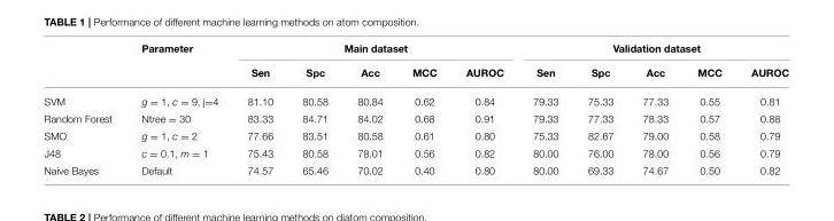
<table><thead><tr><td rowspan="2"></td><td rowspan="2">Parameter</td><td colspan="5">Main dataset</td><td colspan="5">Validation dataset</td></tr><tr><td>Sen</td><td>Spc</td><td>Acc</td><td>MCC</td><td>AUROC</td><td>Sen</td><td>Spc</td><td>Acc</td><td>MCC</td><td>AUROC</td></tr></thead><tbody><tr><td>SVM</td><td>g = 1, c = 9, j=4</td><td>81.10</td><td>80.58</td><td>80.84</td><td>0.62</td><td>0.84</td><td>79.33</td><td>75.33</td><td>77.33</td><td>0.55</td><td>0.81</td></tr><tr><td>Random Forest</td><td>Ntree = 30</td><td>83.33</td><td>84.71</td><td>84.02</td><td>0.68</td><td>0.91</td><td>79.33</td><td>77.33</td><td>78.33</td><td>0.57</td><td>0.88</td></tr><tr><td>SMO</td><td>g = 1, c = 2</td><td>77.66</td><td>83.51</td><td>80.58</td><td>0.61</td><td>0.80</td><td>75.33</td><td>82.67</td><td>79.00</td><td>0.58</td><td>0.79</td></tr><tr><td>J48</td><td>c = 0.1, m = 1</td><td>75.43</td><td>80.58</td><td>78.01</td><td>0.56</td><td>0.82</td><td>80.00</td><td>76.00</td><td>78.00</td><td>0.56</td><td>0.79</td></tr><tr><td>Naive Bayes</td><td>Default</td><td>74.57</td><td>65.46</td><td>70.02</td><td>0.40</td><td>0.80</td><td>80.00</td><td>69.33</td><td>74.67</td><td>0.50</td><td>0.82</td></tr></tbody></table>